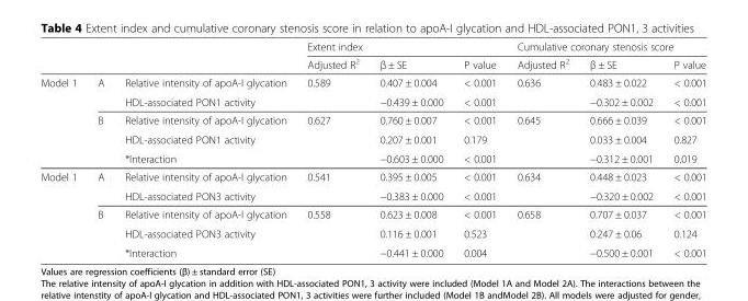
<table><thead><tr><td rowspan="2"></td><td rowspan="2"></td><td rowspan="2"></td><td colspan="3">Extent index</td><td colspan="3">Cumulative coronary stenosis score</td></tr><tr><td>Adjusted R<sup>2</sup></td><td>β ± SE</td><td>P value</td><td>Adjusted R<sup>2</sup></td><td>β ± SE</td><td>P value</td></tr></thead><tbody><tr><td rowspan="5">Model 1</td><td rowspan="2">A</td><td>Relative intensity of apoA-I glycation</td><td>0.589</td><td>0.407 ± 0.004</td><td>&lt; 0.001</td><td>0.636</td><td>0.483 ± 0.022</td><td>&lt; 0.001</td></tr><tr><td>HDL-associated PON1 activity</td><td></td><td>−0.439 ± 0.000</td><td>&lt; 0.001</td><td></td><td>−0.302 ± 0.002</td><td>&lt; 0.001</td></tr><tr><td rowspan="3">B</td><td>Relative intensity of apoA-I glycation</td><td>0.627</td><td>0.760 ± 0.007</td><td>&lt; 0.001</td><td>0.645</td><td>0.666 ± 0.039</td><td>&lt; 0.001</td></tr><tr><td>HDL-associated PON1 activity</td><td></td><td>0.207 ± 0.001</td><td>0.179</td><td></td><td>0.033 ± 0.004</td><td>0.827</td></tr><tr><td>*Interaction</td><td></td><td>−0.603 ± 0.000</td><td>&lt; 0.001</td><td></td><td>−0.312 ± 0.001</td><td>0.019</td></tr><tr><td rowspan="5">Model 1</td><td rowspan="2">A</td><td>Relative intensity of apoA-I glycation</td><td>0.541</td><td>0.395 ± 0.005</td><td>&lt; 0.001</td><td>0.634</td><td>0.448 ± 0.023</td><td>&lt; 0.001</td></tr><tr><td>HDL-associated PON3 activity</td><td></td><td>−0.383 ± 0.000</td><td>&lt; 0.001</td><td></td><td>−0.320 ± 0.002</td><td>&lt; 0.001</td></tr><tr><td rowspan="3">B</td><td>Relative intensity of apoA-I glycation</td><td>0.558</td><td>0.623 ± 0.008</td><td>&lt; 0.001</td><td>0.658</td><td>0.707 ± 0.037</td><td>&lt; 0.001</td></tr><tr><td>HDL-associated PON3 activity</td><td></td><td>0.116 ± 0.001</td><td>0.523</td><td></td><td>0.247 ± 0.06</td><td>0.124</td></tr><tr><td>*Interaction</td><td></td><td>−0.441 ± 0.000</td><td>0.004</td><td></td><td>−0.500 ± 0.001</td><td>&lt; 0.001</td></tr></tbody></table>